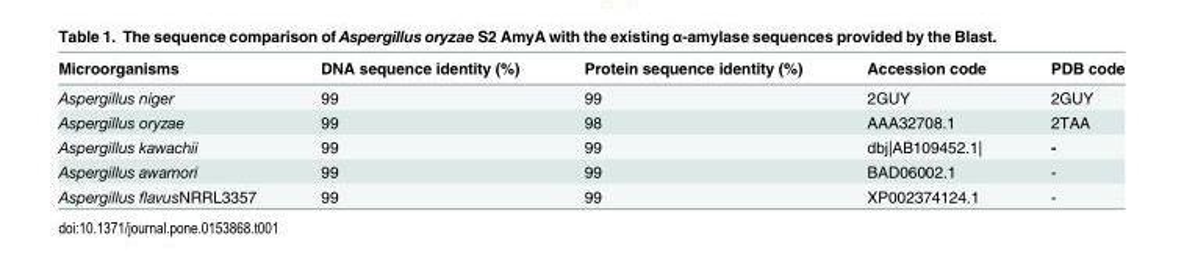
<table><thead><tr><td>Microorganisms</td><td>DNA sequence identity (%)</td><td>Protein sequence identity (%)</td><td>Accession code</td><td>PDB code</td></tr></thead><tbody><tr><td>Aspergillus niger</td><td>99</td><td>99</td><td>2GUY</td><td>2GUY</td></tr><tr><td>Aspergillus oryzae</td><td>99</td><td>98</td><td>AAA32708.1</td><td>2TAA</td></tr><tr><td>Aspergillus kawachii</td><td>99</td><td>99</td><td>dbj|AB109452.1|</td><td>-</td></tr><tr><td>Aspergillus awamori</td><td>99</td><td>99</td><td>BAD06002.1</td><td>-</td></tr><tr><td>Aspergillus flavusNRRL3357</td><td>99</td><td>99</td><td>XP002374124.1</td><td>-</td></tr></tbody></table>